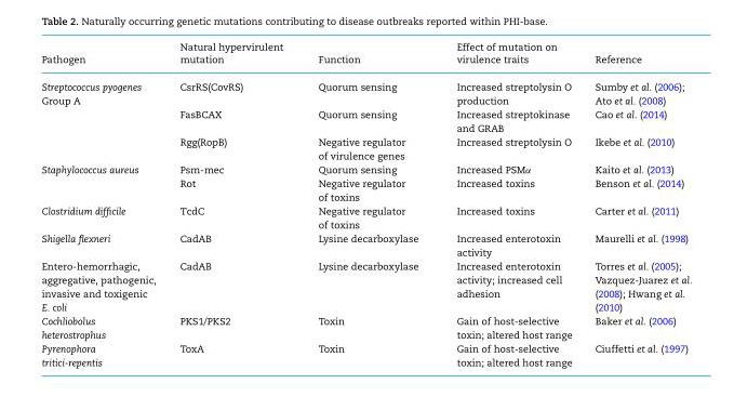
<table><thead><tr><td>Pathogen</td><td>Natural hypervirulent mutation</td><td>Function</td><td>Effect of mutation on virulence traits</td><td>Reference</td></tr></thead><tbody><tr><td rowspan="3">Streptococcus pyogenes Group A</td><td>CsrRS(CovRS)</td><td>Quorum sensing</td><td>Increased streptolysin O production</td><td>Sumby et al. (2006); Ato et al. (2008)</td></tr><tr><td>FasBCAX</td><td>Quorum sensing</td><td>Increased streptokinase and GRAB</td><td>Cao et al. (2014)</td></tr><tr><td>Rgg(RopB)</td><td>Negative regulator of virulence genes</td><td>Increased streptolysin O</td><td>Ikebe et al. (2010)</td></tr><tr><td rowspan="2">Staphylococcus aureus</td><td>Psm-mec</td><td>Quorum sensing</td><td>Increased PSMα</td><td>Kaito et al. (2013)</td></tr><tr><td>Rot</td><td>Negative regulator of toxins</td><td>Increased toxins</td><td>Benson et al. (2014)</td></tr><tr><td>Clostridium difficile</td><td>TcdC</td><td>Negative regulator of toxins</td><td>Increased toxins</td><td>Carter et al. (2011)</td></tr><tr><td>Shigella flexneri</td><td>CadAB</td><td>Lysine decarboxylase</td><td>Increased enterotoxin activity</td><td>Maurelli et al. (1998)</td></tr><tr><td>Entero-hemorrhagic, aggregative, pathogenic, invasive and toxigenic E. coli</td><td>CadAB</td><td>Lysine decarboxylase</td><td>Increased enterotoxin activity; increased cell adhesion</td><td>Torres et al. (2005); Vazquez-Juarez et al. (2008); Hwang et al. (2010)</td></tr><tr><td>Cochliobolus heterostrophus</td><td>PKS1/PKS2</td><td>Toxin</td><td>Gain of host-selective toxin; altered host range</td><td>Baker et al. (2006)</td></tr><tr><td>Pyrenophora tritici-repentis</td><td>ToxA</td><td>Toxin</td><td>Gain of host-selective toxin; altered host range</td><td>Ciuffetti et al. (1997)</td></tr></tbody></table>